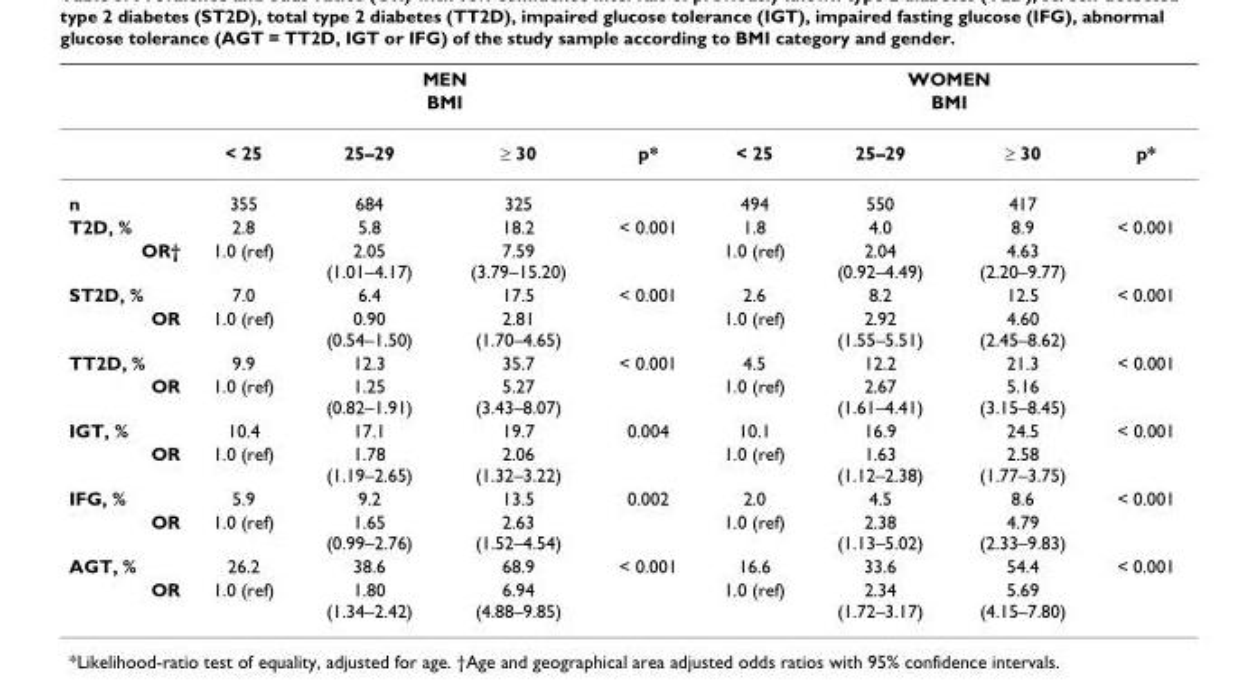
<table><thead><tr><td rowspan="3"></td><td rowspan="2" colspan="4">MEN BMI</td><td rowspan="2" colspan="4">WOMEN BMI</td></tr><tr></tr><tr><td>&lt; 25</td><td>25–29</td><td>≥ 30</td><td>p*</td><td>&lt; 25</td><td>25–29</td><td>≥ 30</td><td>p*</td></tr></thead><tbody><tr><td>n</td><td>355</td><td>684</td><td>325</td><td></td><td>494</td><td>550</td><td>417</td><td></td></tr><tr><td>T2D, %</td><td>2.8</td><td>5.8</td><td>18.2</td><td>&lt; 0.001</td><td>1.8</td><td>4.0</td><td>8.9</td><td>&lt; 0.001</td></tr><tr><td>OR†</td><td>1.0 (ref)</td><td>2.05 (1.01–4.17)</td><td>7.59 (3.79–15.20)</td><td></td><td>1.0 (ref)</td><td>2.04 (0.92–4.49)</td><td>4.63 (2.20–9.77)</td><td></td></tr><tr><td>ST2D, %</td><td>7.0</td><td>6.4</td><td>17.5</td><td>&lt; 0.001</td><td>2.6</td><td>8.2</td><td>12.5</td><td>&lt; 0.001</td></tr><tr><td>OR</td><td>1.0 (ref)</td><td>0.90 (0.54–1.50)</td><td>2.81 (1.70–4.65)</td><td></td><td>1.0 (ref)</td><td>2.92 (1.55–5.51)</td><td>4.60 (2.45–8.62)</td><td></td></tr><tr><td>TT2D, %</td><td>9.9</td><td>12.3</td><td>35.7</td><td>&lt; 0.001</td><td>4.5</td><td>12.2</td><td>21.3</td><td>&lt; 0.001</td></tr><tr><td>OR</td><td>1.0 (ref)</td><td>1.25 (0.82–1.91)</td><td>5.27 (3.43–8.07)</td><td></td><td>1.0 (ref)</td><td>2.67 (1.61–4.41)</td><td>5.16 (3.15–8.45)</td><td></td></tr><tr><td>IGT, %</td><td>10.4</td><td>17.1</td><td>19.7</td><td>0.004</td><td>10.1</td><td>16.9</td><td>24.5</td><td>&lt; 0.001</td></tr><tr><td>OR</td><td>1.0 (ref)</td><td>1.78 (1.19–2.65)</td><td>2.06 (1.32–3.22)</td><td></td><td>1.0 (ref)</td><td>1.63 (1.12–2.38)</td><td>2.58 (1.77–3.75)</td><td></td></tr><tr><td>IFG, %</td><td>5.9</td><td>9.2</td><td>13.5</td><td>0.002</td><td>2.0</td><td>4.5</td><td>8.6</td><td>&lt; 0.001</td></tr><tr><td>OR</td><td>1.0 (ref)</td><td>1.65 (0.99–2.76)</td><td>2.63 (1.52–4.54)</td><td></td><td>1.0 (ref)</td><td>2.38 (1.13–5.02)</td><td>4.79 (2.33–9.83)</td><td></td></tr><tr><td>AGT, %</td><td>26.2</td><td>38.6</td><td>68.9</td><td>&lt; 0.001</td><td>16.6</td><td>33.6</td><td>54.4</td><td>&lt; 0.001</td></tr><tr><td>OR</td><td>1.0 (ref)</td><td>1.80 (1.34–2.42)</td><td>6.94 (4.88–9.85)</td><td></td><td>1.0 (ref)</td><td>2.34 (1.72–3.17)</td><td>5.69 (4.15–7.80)</td><td></td></tr></tbody></table>